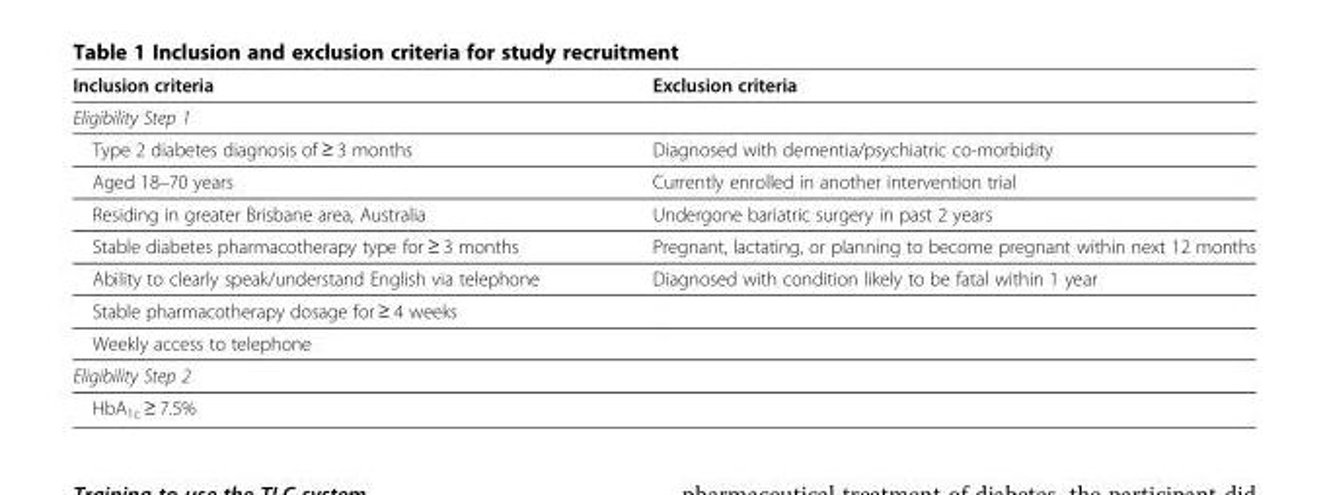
<table><thead><tr><td>Inclusion criteria</td><td>Exclusion criteria</td></tr></thead><tbody><tr><td colspan="2">Eligibility Step 1</td></tr><tr><td>Type 2 diabetes diagnosis of ≥ 3 months</td><td>Diagnosed with dementia/psychiatric co-morbidity</td></tr><tr><td>Aged 18–70 years</td><td>Currently enrolled in another intervention trial</td></tr><tr><td>Residing in greater Brisbane area, Australia</td><td>Undergone bariatric surgery in past 2 years</td></tr><tr><td>Stable diabetes pharmacotherapy type for ≥ 3 months</td><td>Pregnant, lactating, or planning to become pregnant within next 12 months</td></tr><tr><td>Ability to clearly speak/understand English via telephone</td><td>Diagnosed with condition likely to be fatal within 1 year</td></tr><tr><td colspan="2">Stable pharmacotherapy dosage for ≥ 4 weeks</td></tr><tr><td colspan="2">Weekly access to telephone</td></tr><tr><td colspan="2">Eligibility Step 2</td></tr><tr><td>HbA<sub>1c</sub> ≥ 7.5%</td><td></td></tr></tbody></table>